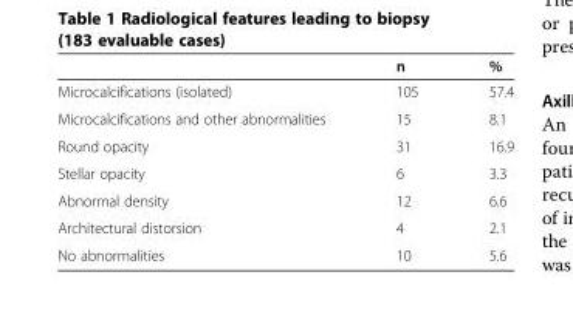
<table><thead><tr><td></td><td>n</td><td>%</td></tr></thead><tbody><tr><td>Microcalcifications (isolated)</td><td>105</td><td>57.4</td></tr><tr><td>Microcalcifications and other abnormalities</td><td>15</td><td>8.1</td></tr><tr><td>Round opacity</td><td>31</td><td>16.9</td></tr><tr><td>Stellar opacity</td><td>6</td><td>3.3</td></tr><tr><td>Abnormal density</td><td>12</td><td>6.6</td></tr><tr><td>Architectural distorsion</td><td>4</td><td>2.1</td></tr><tr><td>No abnormalities</td><td>10</td><td>5.6</td></tr></tbody></table>